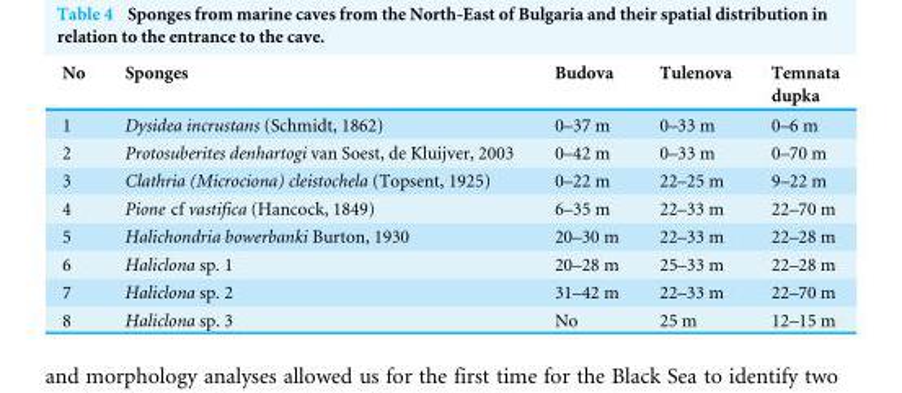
<table><thead><tr><td>No</td><td>Sponges</td><td>Budova</td><td>Tulenova</td><td>Temnata dupka</td></tr></thead><tbody><tr><td>1</td><td>Dysidea incrustans (Schmidt, 1862)</td><td>0–37 m</td><td>0–33 m</td><td>0–6 m</td></tr><tr><td>2</td><td>Protosuberites denhartogi van Soest, de Kluijver, 2003</td><td>0–42 m</td><td>0–33 m</td><td>0–70 m</td></tr><tr><td>3</td><td>Clathria (Microciona) cleistochela (Topsent, 1925)</td><td>0–22 m</td><td>22–25 m</td><td>9–22 m</td></tr><tr><td>4</td><td>Pione cf vastifica (Hancock, 1849)</td><td>6–35 m</td><td>22–33 m</td><td>22–70 m</td></tr><tr><td>5</td><td>Halichondria bowerbanki Burton, 1930</td><td>20–30 m</td><td>22–33 m</td><td>22–28 m</td></tr><tr><td>6</td><td>Haliclona sp. 1</td><td>20–28 m</td><td>25–33 m</td><td>22–28 m</td></tr><tr><td>7</td><td>Haliclona sp. 2</td><td>31–42 m</td><td>22–33 m</td><td>22–70 m</td></tr><tr><td>8</td><td>Haliclona sp. 3</td><td>No</td><td>25 m</td><td>12–15 m</td></tr></tbody></table>